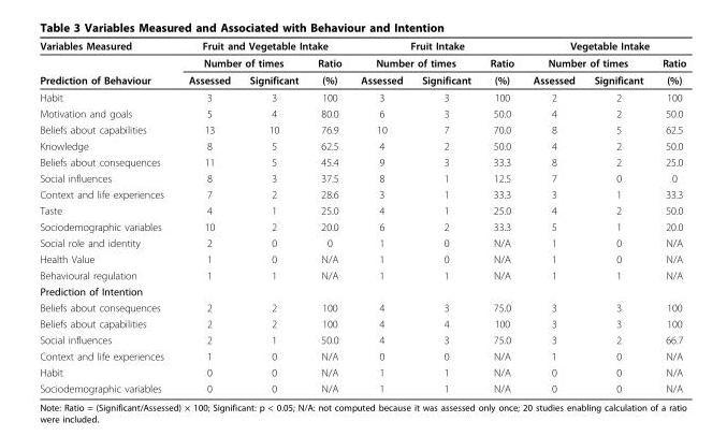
<table><thead><tr><td rowspan="3">Variables Measured Prediction of Behaviour</td><td colspan="3">Fruit and Vegetable Intake</td><td colspan="3">Fruit Intake</td><td colspan="3">Vegetable Intake</td></tr><tr><td colspan="2">Number of times</td><td rowspan="2">Ratio (%)</td><td colspan="2">Number of times</td><td rowspan="2">Ratio (%)</td><td colspan="2">Number of times</td><td rowspan="2">Ratio (%)</td></tr><tr><td>Assessed</td><td>Significant</td><td>Assessed</td><td>Significant</td><td>Assessed</td><td>Significant</td></tr></thead><tbody><tr><td>Habit</td><td>3</td><td>3</td><td>100</td><td>3</td><td>3</td><td>100</td><td>2</td><td>2</td><td>100</td></tr><tr><td>Motivation and goals</td><td>5</td><td>4</td><td>80.0</td><td>6</td><td>3</td><td>50.0</td><td>4</td><td>2</td><td>50.0</td></tr><tr><td>Beliefs about capabilities</td><td>13</td><td>10</td><td>76.9</td><td>10</td><td>7</td><td>70.0</td><td>8</td><td>5</td><td>62.5</td></tr><tr><td>Knowledge</td><td>8</td><td>5</td><td>62.5</td><td>4</td><td>2</td><td>50.0</td><td>4</td><td>2</td><td>50.0</td></tr><tr><td>Beliefs about consequences</td><td>11</td><td>5</td><td>45.4</td><td>9</td><td>3</td><td>33.3</td><td>8</td><td>2</td><td>25.0</td></tr><tr><td>Social influences</td><td>8</td><td>3</td><td>37.5</td><td>8</td><td>1</td><td>12.5</td><td>7</td><td>0</td><td>0</td></tr><tr><td>Context and life experiences</td><td>7</td><td>2</td><td>28.6</td><td>3</td><td>1</td><td>33.3</td><td>3</td><td>1</td><td>33.3</td></tr><tr><td>Taste</td><td>4</td><td>1</td><td>25.0</td><td>4</td><td>1</td><td>25.0</td><td>4</td><td>2</td><td>50.0</td></tr><tr><td>Sociodemographic variables</td><td>10</td><td>2</td><td>20.0</td><td>6</td><td>2</td><td>33.3</td><td>5</td><td>1</td><td>20.0</td></tr><tr><td>Social role and identity</td><td>2</td><td>0</td><td>0</td><td>1</td><td>0</td><td>N/A</td><td>1</td><td>0</td><td>N/A</td></tr><tr><td>Health Value</td><td>1</td><td>0</td><td>N/A</td><td>1</td><td>0</td><td>N/A</td><td>1</td><td>0</td><td>N/A</td></tr><tr><td>Behavioural regulation</td><td>1</td><td>1</td><td>N/A</td><td>1</td><td>1</td><td>N/A</td><td>1</td><td>1</td><td>N/A</td></tr><tr><td colspan="10">Prediction of Intention</td></tr><tr><td>Beliefs about consequences</td><td>2</td><td>2</td><td>100</td><td>4</td><td>3</td><td>75.0</td><td>3</td><td>3</td><td>100</td></tr><tr><td>Beliefs about capabilities</td><td>2</td><td>2</td><td>100</td><td>4</td><td>4</td><td>100</td><td>3</td><td>3</td><td>100</td></tr><tr><td>Social influences</td><td>2</td><td>1</td><td>50.0</td><td>4</td><td>3</td><td>75.0</td><td>3</td><td>2</td><td>66.7</td></tr><tr><td>Context and life experiences</td><td>1</td><td>0</td><td>N/A</td><td>0</td><td>0</td><td>N/A</td><td>1</td><td>0</td><td>N/A</td></tr><tr><td>Habit</td><td>0</td><td>0</td><td>N/A</td><td>1</td><td>1</td><td>N/A</td><td>0</td><td>0</td><td>N/A</td></tr><tr><td>Sociodemographic variables</td><td>0</td><td>0</td><td>N/A</td><td>1</td><td>1</td><td>N/A</td><td>0</td><td>0</td><td>N/A</td></tr></tbody></table>